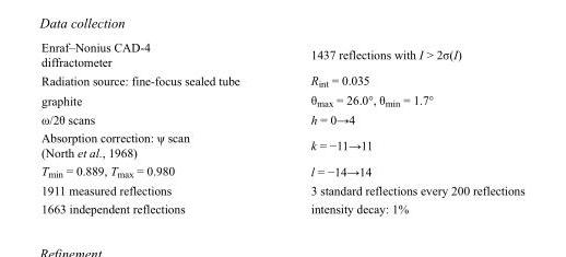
<table><tbody><tr><td>Enraf–Nonius CAD-4 diffractometer</td><td>1437 reflections with I &gt; 2σ(I)</td></tr><tr><td>Radiation source: fine-focus sealed tube</td><td>R<sub>int</sub> = 0.035</td></tr><tr><td>graphite</td><td>θ<sub>max</sub> = 26.0°, θ<sub>min</sub> = 1.7°</td></tr><tr><td>ω/2θ scans</td><td>h = 0→4</td></tr><tr><td>Absorption correction: ψ scan (North et al., 1968)</td><td>k = −11→11</td></tr><tr><td>T<sub>min</sub> = 0.889, T<sub>max</sub> = 0.980</td><td>l = −14→14</td></tr><tr><td>1911 measured reflections</td><td>3 standard reflections every 200 reflections</td></tr><tr><td>1663 independent reflections</td><td>intensity decay: 1%</td></tr></tbody></table>